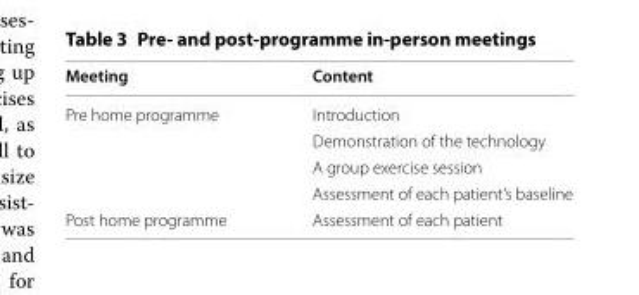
<table><thead><tr><td>Meeting</td><td>Content</td></tr></thead><tbody><tr><td rowspan="4">Pre home programme</td><td>Introduction</td></tr><tr><td>Demonstration of the technology</td></tr><tr><td>A group exercise session</td></tr><tr><td>Assessment of each patient’s baseline</td></tr><tr><td>Post home programme</td><td>Assessment of each patient</td></tr></tbody></table>